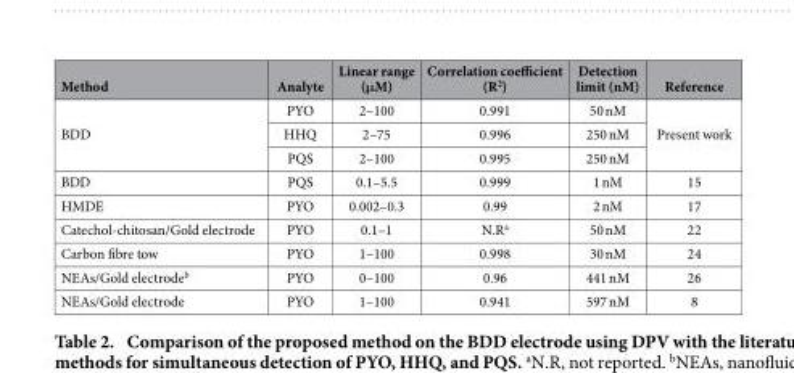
<table><thead><tr><td>Method</td><td>Analyte</td><td>Linear range (μM)</td><td>Correlation coefficient (R<sup>2</sup>)</td><td>Detection limit (nM)</td><td>Reference</td></tr></thead><tbody><tr><td rowspan="3">BDD</td><td>PYO</td><td>2–100</td><td>0.991</td><td>50 nM</td><td rowspan="3">Present work</td></tr><tr><td>HHQ</td><td>2–75</td><td>0.996</td><td>250 nM</td></tr><tr><td>PQS</td><td>2–100</td><td>0.995</td><td>250 nM</td></tr><tr><td>BDD</td><td>PQS</td><td>0.1–5.5</td><td>0.999</td><td>1 nM</td><td>15</td></tr><tr><td>HMDE</td><td>PYO</td><td>0.002–0.3</td><td>0.99</td><td>2 nM</td><td>17</td></tr><tr><td>Catechol-chitosan/Gold electrode</td><td>PYO</td><td>0.1–1</td><td>N.R<sup>a</sup></td><td>50 nM</td><td>22</td></tr><tr><td>Carbon fibre tow</td><td>PYO</td><td>1–100</td><td>0.998</td><td>30 nM</td><td>24</td></tr><tr><td>NEAs/Gold electrode<sup>b</sup></td><td>PYO</td><td>0–100</td><td>0.96</td><td>441 nM</td><td>26</td></tr><tr><td>NEAs/Gold electrode</td><td>PYO</td><td>1–100</td><td>0.941</td><td>597 nM</td><td>8</td></tr></tbody></table>